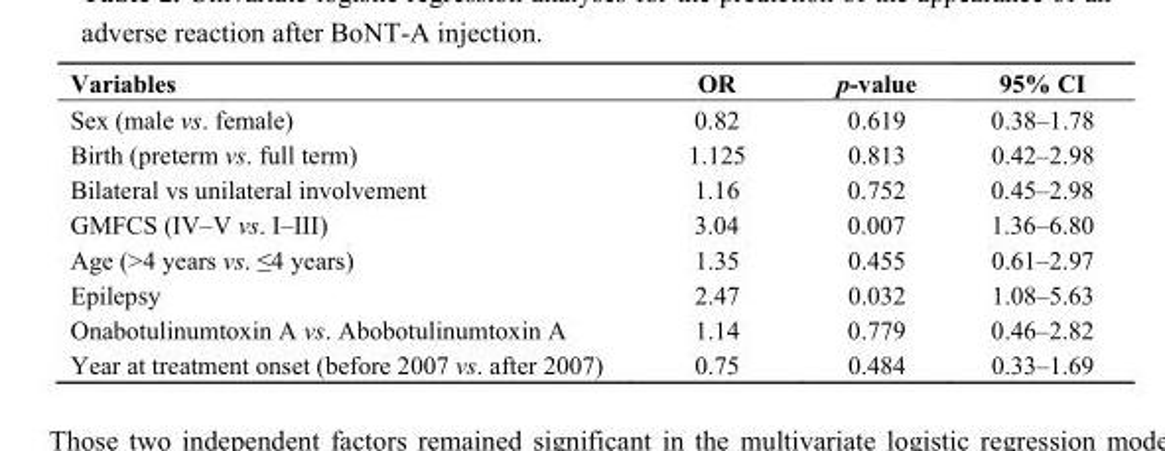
<table><thead><tr><td>Variables</td><td>OR</td><td>p-value</td><td>95% CI</td></tr></thead><tbody><tr><td>Sex (male vs. female)</td><td>0.82</td><td>0.619</td><td>0.38–1.78</td></tr><tr><td>Birth (preterm vs. full term)</td><td>1.125</td><td>0.813</td><td>0.42–2.98</td></tr><tr><td>Bilateral vs unilateral involvement</td><td>1.16</td><td>0.752</td><td>0.45–2.98</td></tr><tr><td>GMFCS (IV–V vs. I–III)</td><td>3.04</td><td>0.007</td><td>1.36–6.80</td></tr><tr><td>Age (&gt;4 years vs. ≤4 years)</td><td>1.35</td><td>0.455</td><td>0.61–2.97</td></tr><tr><td>Epilepsy</td><td>2.47</td><td>0.032</td><td>1.08–5.63</td></tr><tr><td>Onabotulinumtoxin A vs. Abobotulinumtoxin A</td><td>1.14</td><td>0.779</td><td>0.46–2.82</td></tr><tr><td>Year at treatment onset (before 2007 vs. after 2007)</td><td>0.75</td><td>0.484</td><td>0.33–1.69</td></tr></tbody></table>